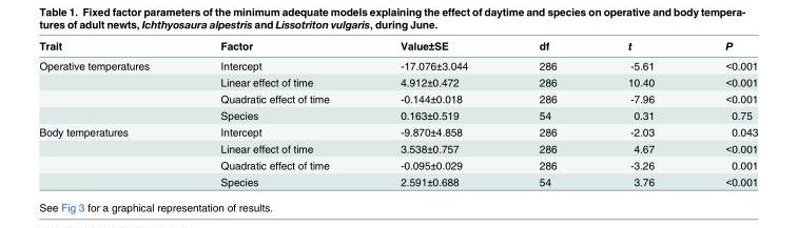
<table><thead><tr><td>Trait</td><td>Factor</td><td>Value±SE</td><td>df</td><td>t</td><td>P</td></tr></thead><tbody><tr><td rowspan="4">Operative temperatures</td><td>Intercept</td><td>-17.076±3.044</td><td>286</td><td>-5.61</td><td>&lt;0.001</td></tr><tr><td>Linear effect of time</td><td>4.912±0.472</td><td>286</td><td>10.40</td><td>&lt;0.001</td></tr><tr><td>Quadratic effect of time</td><td>-0.144±0.018</td><td>286</td><td>-7.96</td><td>&lt;0.001</td></tr><tr><td>Species</td><td>0.163±0.519</td><td>54</td><td>0.31</td><td>0.75</td></tr><tr><td rowspan="4">Body temperatures</td><td>Intercept</td><td>-9.870±4.858</td><td>286</td><td>-2.03</td><td>0.043</td></tr><tr><td>Linear effect of time</td><td>3.538±0.757</td><td>286</td><td>4.67</td><td>&lt;0.001</td></tr><tr><td>Quadratic effect of time</td><td>-0.095±0.029</td><td>286</td><td>-3.26</td><td>0.001</td></tr><tr><td>Species</td><td>2.591±0.688</td><td>54</td><td>3.76</td><td>&lt;0.001</td></tr></tbody></table>